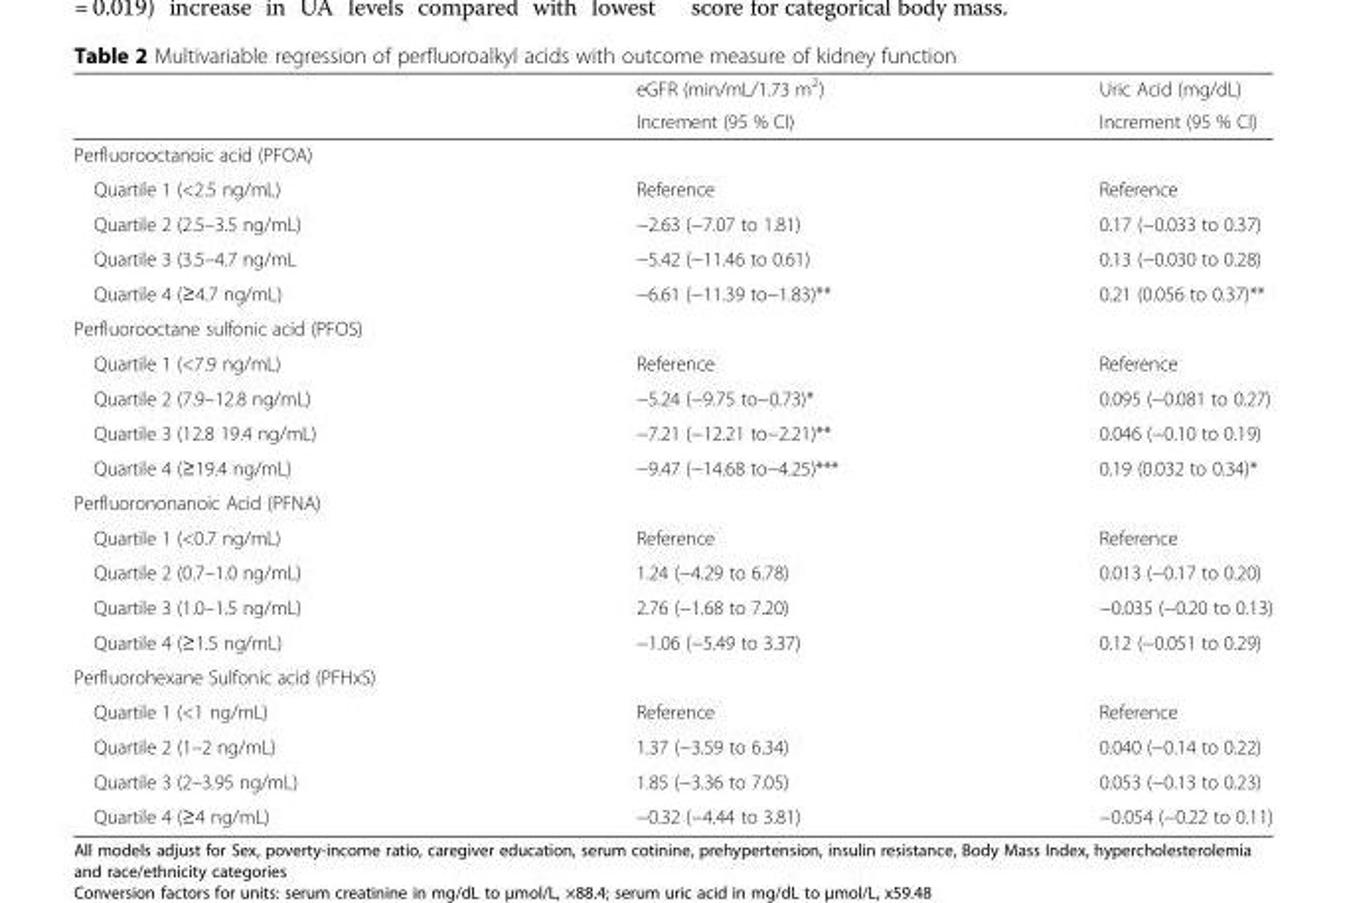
<table><thead><tr><td rowspan="2"></td><td rowspan="2">eGFR (min/mL/1.73 m<sup>2</sup>) Increment (95 % CI)</td><td rowspan="2">Uric Acid (mg/dL) Increment (95 % CI)</td></tr><tr></tr></thead><tbody><tr><td colspan="3">Perfluorooctanoic acid (PFOA)</td></tr><tr><td>Quartile 1 (&lt;2.5 ng/mL)</td><td>Reference</td><td>Reference</td></tr><tr><td>Quartile 2 (2.5–3.5 ng/mL)</td><td>−2.63 (−7.07 to 1.81)</td><td>0.17 (−0.033 to 0.37)</td></tr><tr><td>Quartile 3 (3.5–4.7 ng/mL</td><td>−5.42 (−11.46 to 0.61)</td><td>0.13 (−0.030 to 0.28)</td></tr><tr><td>Quartile 4 (≥4.7 ng/mL)</td><td>−6.61 (−11.39 to−1.83)**</td><td>0.21 (0.056 to 0.37)**</td></tr><tr><td colspan="3">Perfluorooctane sulfonic acid (PFOS)</td></tr><tr><td>Quartile 1 (&lt;7.9 ng/mL)</td><td>Reference</td><td>Reference</td></tr><tr><td>Quartile 2 (7.9–12.8 ng/mL)</td><td>−5.24 (−9.75 to−0.73)*</td><td>0.095 (−0.081 to 0.27)</td></tr><tr><td>Quartile 3 (12.8 19.4 ng/mL)</td><td>−7.21 (−12.21 to−2.21)**</td><td>0.046 (−0.10 to 0.19)</td></tr><tr><td>Quartile 4 (≥19.4 ng/mL)</td><td>−9.47 (−14.68 to−4.25)***</td><td>0.19 (0.032 to 0.34)*</td></tr><tr><td colspan="3">Perfluorononanoic Acid (PFNA)</td></tr><tr><td>Quartile 1 (&lt;0.7 ng/mL)</td><td>Reference</td><td>Reference</td></tr><tr><td>Quartile 2 (0.7–1.0 ng/mL)</td><td>1.24 (−4.29 to 6.78)</td><td>0.013 (−0.17 to 0.20)</td></tr><tr><td>Quartile 3 (1.0–1.5 ng/mL)</td><td>2.76 (−1.68 to 7.20)</td><td>−0.035 (−0.20 to 0.13)</td></tr><tr><td>Quartile 4 (≥1.5 ng/mL)</td><td>−1.06 (−5.49 to 3.37)</td><td>0.12 (−0.051 to 0.29)</td></tr><tr><td colspan="3">Perfluorohexane Sulfonic acid (PFHxS)</td></tr><tr><td>Quartile 1 (&lt;1 ng/mL)</td><td>Reference</td><td>Reference</td></tr><tr><td>Quartile 2 (1–2 ng/mL)</td><td>1.37 (−3.59 to 6.34)</td><td>0.040 (−0.14 to 0.22)</td></tr><tr><td>Quartile 3 (2–3.95 ng/mL)</td><td>1.85 (−3.36 to 7.05)</td><td>0.053 (−0.13 to 0.23)</td></tr><tr><td>Quartile 4 (≥4 ng/mL)</td><td>−0.32 (−4.44 to 3.81)</td><td>−0.054 (−0.22 to 0.11)</td></tr></tbody></table>